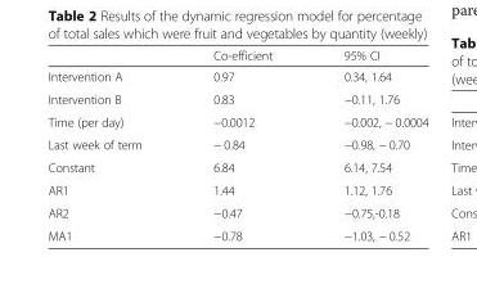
<table><thead><tr><td></td><td>Co-efficient</td><td>95% CI</td></tr></thead><tbody><tr><td>Intervention A</td><td>0.97</td><td>0.34, 1.64</td></tr><tr><td>Intervention B</td><td>0.83</td><td>−0.11, 1.76</td></tr><tr><td>Time (per day)</td><td>−0.0012</td><td>−0.002, − 0.0004</td></tr><tr><td>Last week of term</td><td>− 0.84</td><td>−0.98, − 0.70</td></tr><tr><td>Constant</td><td>6.84</td><td>6.14, 7.54</td></tr><tr><td>AR1</td><td>1.44</td><td>1.12, 1.76</td></tr><tr><td>AR2</td><td>−0.47</td><td>−0.75,-0.18</td></tr><tr><td>MA1</td><td>−0.78</td><td>−1.03, − 0.52</td></tr></tbody></table>